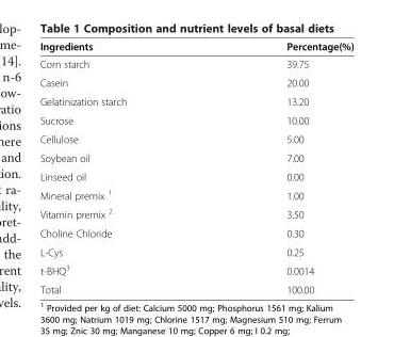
<table><thead><tr><td>Ingredients</td><td>Percentage(%)</td></tr></thead><tbody><tr><td>Corn starch</td><td>39.75</td></tr><tr><td>Casein</td><td>20.00</td></tr><tr><td>Gelatinization starch</td><td>13.20</td></tr><tr><td>Sucrose</td><td>10.00</td></tr><tr><td>Cellulose</td><td>5.00</td></tr><tr><td>Soybean oil</td><td>7.00</td></tr><tr><td>Linseed oil</td><td>0.00</td></tr><tr><td>Mineral premix <sup>1</sup></td><td>1.00</td></tr><tr><td>Vitamin premix <sup>2</sup></td><td>3.50</td></tr><tr><td>Choline Chloride</td><td>0.30</td></tr><tr><td>L-Cys</td><td>0.25</td></tr><tr><td>t-BHQ<sup>3</sup></td><td>0.0014</td></tr><tr><td>Total</td><td>100.00</td></tr></tbody></table>